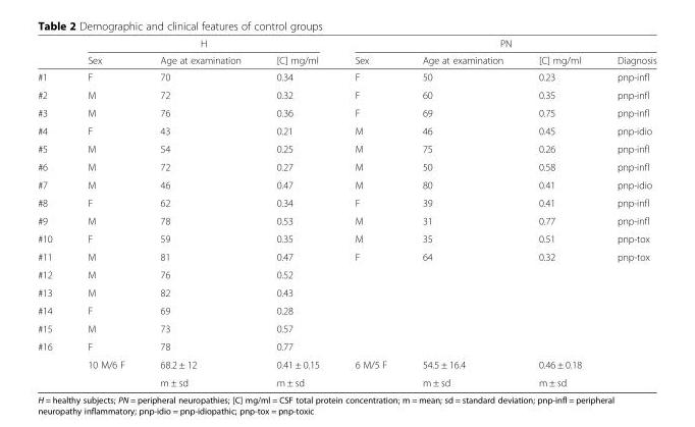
<table><thead><tr><td rowspan="2"></td><td colspan="3">H</td><td colspan="4">PN</td></tr><tr><td>Sex</td><td>Age at examination</td><td>[C] mg/ml</td><td>Sex</td><td>Age at examination</td><td>[C] mg/ml</td><td>Diagnosis</td></tr></thead><tbody><tr><td>#1</td><td>F</td><td>70</td><td>0.34</td><td>F</td><td>50</td><td>0.23</td><td>pnp-infl</td></tr><tr><td>#2</td><td>M</td><td>72</td><td>0.32</td><td>F</td><td>60</td><td>0.35</td><td>pnp-infl</td></tr><tr><td>#3</td><td>M</td><td>76</td><td>0.36</td><td>F</td><td>69</td><td>0.75</td><td>pnp-infl</td></tr><tr><td>#4</td><td>F</td><td>43</td><td>0.21</td><td>M</td><td>46</td><td>0.45</td><td>pnp-idio</td></tr><tr><td>#5</td><td>M</td><td>54</td><td>0.25</td><td>M</td><td>75</td><td>0.26</td><td>pnp-infl</td></tr><tr><td>#6</td><td>M</td><td>72</td><td>0.27</td><td>M</td><td>50</td><td>0.58</td><td>pnp-infl</td></tr><tr><td>#7</td><td>M</td><td>46</td><td>0.47</td><td>M</td><td>80</td><td>0.41</td><td>pnp-idio</td></tr><tr><td>#8</td><td>F</td><td>62</td><td>0.34</td><td>F</td><td>39</td><td>0.41</td><td>pnp-infl</td></tr><tr><td>#9</td><td>M</td><td>78</td><td>0.53</td><td>M</td><td>31</td><td>0.77</td><td>pnp-infl</td></tr><tr><td>#10</td><td>F</td><td>59</td><td>0.35</td><td>M</td><td>35</td><td>0.51</td><td>pnp-tox</td></tr><tr><td>#11</td><td>M</td><td>81</td><td>0.47</td><td>F</td><td>64</td><td>0.32</td><td>pnp-tox</td></tr><tr><td>#12</td><td>M</td><td>76</td><td>0.52</td><td></td><td></td><td></td><td></td></tr><tr><td>#13</td><td>M</td><td>82</td><td>0.43</td><td></td><td></td><td></td><td></td></tr><tr><td>#14</td><td>F</td><td>69</td><td>0.28</td><td></td><td></td><td></td><td></td></tr><tr><td>#15</td><td>M</td><td>73</td><td>0.57</td><td></td><td></td><td></td><td></td></tr><tr><td rowspan="3">#16</td><td>F</td><td>78</td><td>0.77</td><td></td><td></td><td></td><td></td></tr><tr><td>10 M/6 F</td><td>68.2 ± 12</td><td>0.41 ± 0.15</td><td>6 M/5 F</td><td>54.5 ± 16.4</td><td>0.46 ± 0.18</td><td></td></tr><tr><td></td><td>m ± sd</td><td>m ± sd</td><td></td><td>m ± sd</td><td>m ± sd</td><td></td></tr></tbody></table>